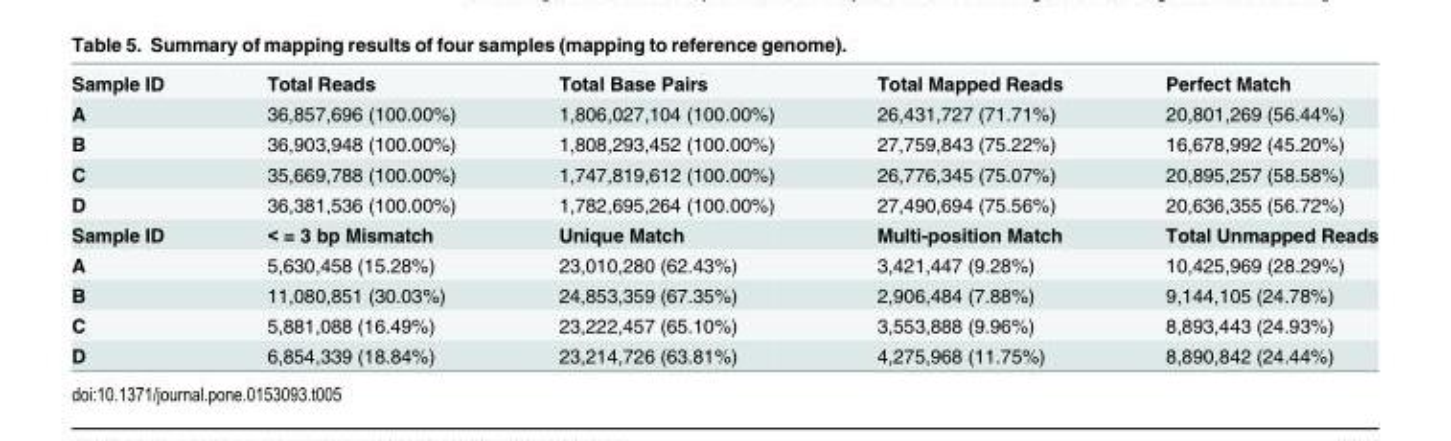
<table><tbody><tr><td>Sample ID</td><td>Total Reads</td><td>Total Base Pairs</td><td>Total Mapped Reads</td><td>Perfect Match</td></tr><tr><td>A</td><td>36,857,696 (100.00%)</td><td>1,806,027,104 (100.00%)</td><td>26,431,727 (71.71%)</td><td>20,801,269 (56.44%)</td></tr><tr><td>B</td><td>36,903,948 (100.00%)</td><td>1,808,293,452 (100.00%)</td><td>27,759,843 (75.22%)</td><td>16,678,992 (45.20%)</td></tr><tr><td>C</td><td>35,669,788 (100.00%)</td><td>1,747,819,612 (100.00%)</td><td>26,776,345 (75.07%)</td><td>20,895,257 (58.58%)</td></tr><tr><td>D</td><td>36,381,536 (100.00%)</td><td>1,782,695,264 (100.00%)</td><td>27,490,694 (75.56%)</td><td>20,636,355 (56.72%)</td></tr><tr><td>Sample ID</td><td>&lt; = 3 bp Mismatch</td><td>Unique Match</td><td>Multi-position Match</td><td>Total Unmapped Reads</td></tr><tr><td>A</td><td>5,630,458 (15.28%)</td><td>23,010,280 (62.43%)</td><td>3,421,447 (9.28%)</td><td>10,425,969 (28.29%)</td></tr><tr><td>B</td><td>11,080,851 (30.03%)</td><td>24,853,359 (67.35%)</td><td>2,906,484 (7.88%)</td><td>9,144,105 (24.78%)</td></tr><tr><td>C</td><td>5,881,088 (16.49%)</td><td>23,222,457 (65.10%)</td><td>3,553,888 (9.96%)</td><td>8,893,443 (24.93%)</td></tr><tr><td>D</td><td>6,854,339 (18.84%)</td><td>23,214,726 (63.81%)</td><td>4,275,968 (11.75%)</td><td>8,890,842 (24.44%)</td></tr></tbody></table>